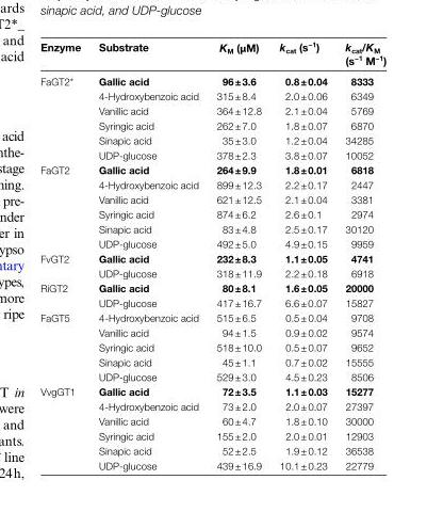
<table><thead><tr><td>Enzyme</td><td>Substrate</td><td>K<sub>M</sub> (µM)</td><td>k<sub>cat</sub> (s<sup>−1</sup>)</td><td>k<sub>cat</sub>/K<sub>M</sub> (s<sup>−1</sup> M<sup>−1</sup>)</td></tr></thead><tbody><tr><td rowspan="6">FaGT2*</td><td>Gallic acid</td><td>96 ± 3.6</td><td>0.8 ± 0.04</td><td>8333</td></tr><tr><td>4-Hydroxybenzoic acid</td><td>315 ± 8.4</td><td>2.0 ± 0.06</td><td>6349</td></tr><tr><td>Vanillic acid</td><td>364 ± 12.8</td><td>2.1 ± 0.04</td><td>5769</td></tr><tr><td>Syringic acid</td><td>262 ± 7.0</td><td>1.8 ± 0.07</td><td>6870</td></tr><tr><td>Sinapic acid</td><td>35 ± 3.0</td><td>1.2 ± 0.04</td><td>34285</td></tr><tr><td>UDP-glucose</td><td>378 ± 2.3</td><td>3.8 ± 0.07</td><td>10052</td></tr><tr><td rowspan="6">FaGT2</td><td>Gallic acid</td><td>264 ± 9.9</td><td>1.8 ± 0.01</td><td>6818</td></tr><tr><td>4-Hydroxybenzoic acid</td><td>899 ± 12.3</td><td>2.2 ± 0.17</td><td>2447</td></tr><tr><td>Vanillic acid</td><td>621 ± 12.5</td><td>2.1 ± 0.04</td><td>3381</td></tr><tr><td>Syringic acid</td><td>874 ± 6.2</td><td>2.6 ± 0.1</td><td>2974</td></tr><tr><td>Sinapic acid</td><td>83 ± 4.8</td><td>2.5 ± 0.17</td><td>30120</td></tr><tr><td>UDP-glucose</td><td>492 ± 5.0</td><td>4.9 ± 0.15</td><td>9959</td></tr><tr><td rowspan="2">FvGT2</td><td>Gallic acid</td><td>232 ± 8.3</td><td>1.1 ± 0.05</td><td>4741</td></tr><tr><td>UDP-glucose</td><td>318 ± 11.9</td><td>2.2 ± 0.18</td><td>6918</td></tr><tr><td rowspan="2">RiGT2</td><td>Gallic acid</td><td>80 ± 8.1</td><td>1.6 ± 0.05</td><td>20000</td></tr><tr><td>UDP-glucose</td><td>417 ± 16.7</td><td>6.6 ± 0.07</td><td>15827</td></tr><tr><td rowspan="5">FaGT5</td><td>4-Hydroxybenzoic acid</td><td>515 ± 6.5</td><td>0.5 ± 0.04</td><td>9708</td></tr><tr><td>Vanillic acid</td><td>94 ± 1.5</td><td>0.9 ± 0.02</td><td>9574</td></tr><tr><td>Syringic acid</td><td>518 ± 10.0</td><td>0.5 ± 0.07</td><td>9652</td></tr><tr><td>Sinapic acid</td><td>45 ± 1.1</td><td>0.7 ± 0.02</td><td>15555</td></tr><tr><td>UDP-glucose</td><td>529 ± 3.0</td><td>4.5 ± 0.23</td><td>8506</td></tr><tr><td rowspan="6">VvgGT1</td><td>Gallic acid</td><td>72 ± 3.5</td><td>1.1 ± 0.03</td><td>15277</td></tr><tr><td>4-Hydroxybenzoic acid</td><td>73 ± 2.0</td><td>2.0 ± 0.07</td><td>27397</td></tr><tr><td>Vanillic acid</td><td>60 ± 4.7</td><td>1.8 ± 0.10</td><td>30000</td></tr><tr><td>Syringic acid</td><td>155 ± 2.0</td><td>2.0 ± 0.01</td><td>12903</td></tr><tr><td>Sinapic acid</td><td>52 ± 2.5</td><td>1.9 ± 0.12</td><td>36538</td></tr><tr><td>UDP-glucose</td><td>439 ± 16.9</td><td>10.1 ± 0.23</td><td>22779</td></tr></tbody></table>